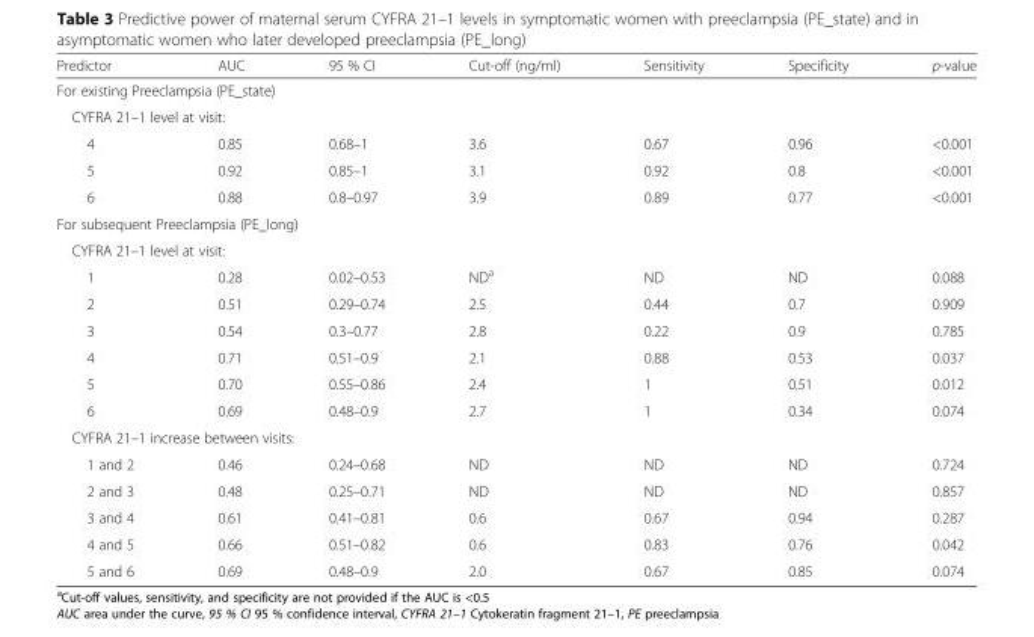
<table><thead><tr><td>Predictor</td><td>AUC</td><td>95 % CI</td><td>Cut-off (ng/ml)</td><td>Sensitivity</td><td>Specificity</td><td>p-value</td></tr></thead><tbody><tr><td colspan="7">For existing Preeclampsia (PE_state)</td></tr><tr><td colspan="7">CYFRA 21–1 level at visit:</td></tr><tr><td>4</td><td>0.85</td><td>0.68–1</td><td>3.6</td><td>0.67</td><td>0.96</td><td>&lt;0.001</td></tr><tr><td>5</td><td>0.92</td><td>0.85–1</td><td>3.1</td><td>0.92</td><td>0.8</td><td>&lt;0.001</td></tr><tr><td>6</td><td>0.88</td><td>0.8–0.97</td><td>3.9</td><td>0.89</td><td>0.77</td><td>&lt;0.001</td></tr><tr><td colspan="7">For subsequent Preeclampsia (PE_long)</td></tr><tr><td colspan="7">CYFRA 21–1 level at visit:</td></tr><tr><td>1</td><td>0.28</td><td>0.02–0.53</td><td>ND<sup>a</sup></td><td>ND</td><td>ND</td><td>0.088</td></tr><tr><td>2</td><td>0.51</td><td>0.29–0.74</td><td>2.5</td><td>0.44</td><td>0.7</td><td>0.909</td></tr><tr><td>3</td><td>0.54</td><td>0.3–0.77</td><td>2.8</td><td>0.22</td><td>0.9</td><td>0.785</td></tr><tr><td>4</td><td>0.71</td><td>0.51–0.9</td><td>2.1</td><td>0.88</td><td>0.53</td><td>0.037</td></tr><tr><td>5</td><td>0.70</td><td>0.55–0.86</td><td>2.4</td><td>1</td><td>0.51</td><td>0.012</td></tr><tr><td>6</td><td>0.69</td><td>0.48–0.9</td><td>2.7</td><td>1</td><td>0.34</td><td>0.074</td></tr><tr><td colspan="7">CYFRA 21–1 increase between visits:</td></tr><tr><td>1 and 2</td><td>0.46</td><td>0.24–0.68</td><td>ND</td><td>ND</td><td>ND</td><td>0.724</td></tr><tr><td>2 and 3</td><td>0.48</td><td>0.25–0.71</td><td>ND</td><td>ND</td><td>ND</td><td>0.857</td></tr><tr><td>3 and 4</td><td>0.61</td><td>0.41–0.81</td><td>0.6</td><td>0.67</td><td>0.94</td><td>0.287</td></tr><tr><td>4 and 5</td><td>0.66</td><td>0.51–0.82</td><td>0.6</td><td>0.83</td><td>0.76</td><td>0.042</td></tr><tr><td>5 and 6</td><td>0.69</td><td>0.48–0.9</td><td>2.0</td><td>0.67</td><td>0.85</td><td>0.074</td></tr></tbody></table>